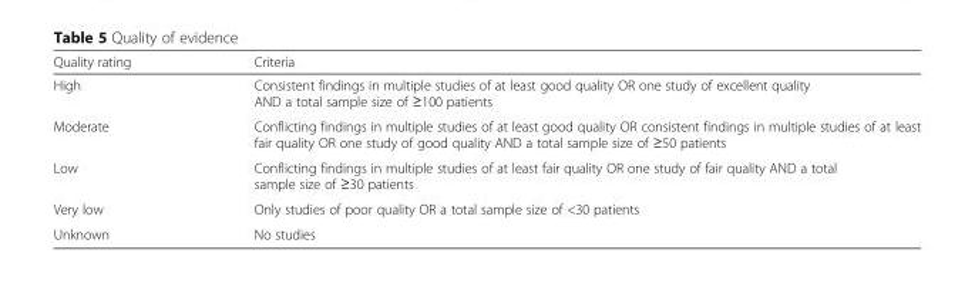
<table><thead><tr><td>Quality rating</td><td>Criteria</td></tr></thead><tbody><tr><td>High</td><td>Consistent findings in multiple studies of at least good quality OR one study of excellent quality AND a total sample size of ≥100 patients</td></tr><tr><td>Moderate</td><td>Conflicting findings in multiple studies of at least good quality OR consistent findings in multiple studies of at least fair quality OR one study of good quality AND a total sample size of ≥50 patients</td></tr><tr><td>Low</td><td>Conflicting findings in multiple studies of at least fair quality OR one study of fair quality AND a total sample size of ≥30 patients</td></tr><tr><td>Very low</td><td>Only studies of poor quality OR a total sample size of &lt;30 patients</td></tr><tr><td>Unknown</td><td>No studies</td></tr></tbody></table>